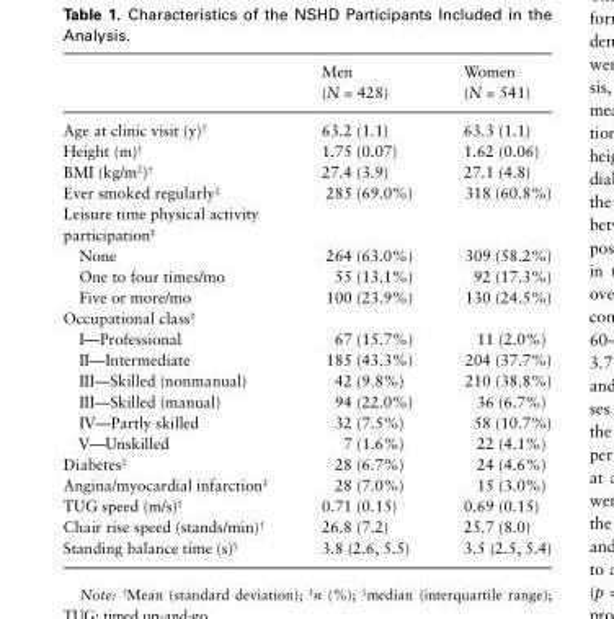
<table><thead><tr><td></td><td>Men (N = 428)</td><td>Women (N = 541)</td></tr></thead><tbody><tr><td>Age at clinic visit (y)<sup>†</sup></td><td>63.2 (1.1)</td><td>63.3 (1.1)</td></tr><tr><td>Height (m)<sup>†</sup></td><td>1.75 (0.07)</td><td>1.62 (0.06)</td></tr><tr><td>BMI (kg/m<sup>2</sup>)<sup>†</sup></td><td>27.4 (3.9)</td><td>27.1 (4.8)</td></tr><tr><td>Ever smoked regularly<sup>‡</sup></td><td>285 (69.0%)</td><td>318 (60.8%)</td></tr><tr><td colspan="3">Leisure time physical activity participation<sup>‡</sup></td></tr><tr><td>None</td><td>264 (63.0%)</td><td>309 (58.2%)</td></tr><tr><td>One to four times/mo</td><td>55 (13.1%)</td><td>92 (17.3%)</td></tr><tr><td>Five or more/mo</td><td>100 (23.9%)</td><td>130 (24.5%)</td></tr><tr><td colspan="3">Occupational class<sup>‡</sup></td></tr><tr><td>I—Professional</td><td>67 (15.7%)</td><td>11 (2.0%)</td></tr><tr><td>II—Intermediate</td><td>185 (43.3%)</td><td>204 (37.7%)</td></tr><tr><td>III—Skilled (nonmanual)</td><td>42 (9.8%)</td><td>210 (38.8%)</td></tr><tr><td>III—Skilled (manual)</td><td>94 (22.0%)</td><td>36 (6.7%)</td></tr><tr><td>IV—Partly skilled</td><td>32 (7.5%)</td><td>58 (10.7%)</td></tr><tr><td>V—Unskilled</td><td>7 (1.6%)</td><td>22 (4.1%)</td></tr><tr><td>Diabetes<sup>‡</sup></td><td>28 (6.7%)</td><td>24 (4.6%)</td></tr><tr><td>Angina/myocardial infarction<sup>‡</sup></td><td>28 (7.0%)</td><td>15 (3.0%)</td></tr><tr><td>TUG speed (m/s)<sup>†</sup></td><td>0.71 (0.15)</td><td>0.69 (0.15)</td></tr><tr><td>Chair rise speed (stands/min)<sup>†</sup></td><td>26.8 (7.2)</td><td>25.7 (8.0)</td></tr><tr><td>Standing balance time (s)<sup>§</sup></td><td>3.8 (2.6, 5.5)</td><td>3.5 (2.5, 5.4)</td></tr></tbody></table>